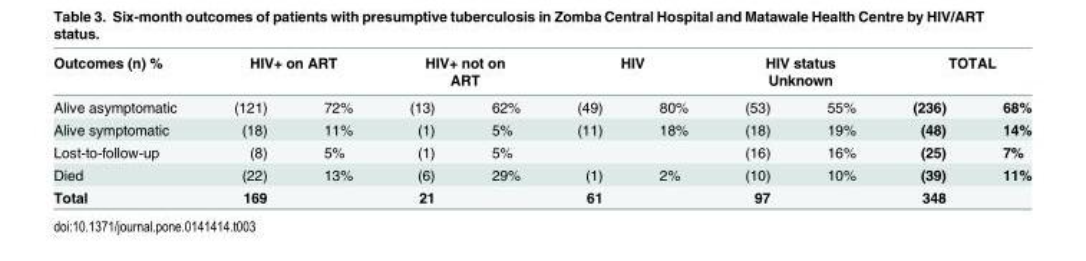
<table><thead><tr><td rowspan="2">Outcomes (n) % Alive asymptomatic</td><td colspan="2">HIV+ on ART</td><td colspan="2">HIV+ not on ART</td><td colspan="2">HIV</td><td colspan="2">HIV status Unknown</td><td colspan="2">TOTAL</td></tr><tr><td>(121)</td><td>72%</td><td>(13)</td><td>62%</td><td>(49)</td><td>80%</td><td>(53)</td><td>55%</td><td>(236)</td><td>68%</td></tr></thead><tbody><tr><td>Alive symptomatic</td><td>(18)</td><td>11%</td><td>(1)</td><td>5%</td><td>(11)</td><td>18%</td><td>(18)</td><td>19%</td><td>(48)</td><td>14%</td></tr><tr><td>Lost-to-follow-up</td><td>(8)</td><td>5%</td><td>(1)</td><td>5%</td><td></td><td></td><td>(16)</td><td>16%</td><td>(25)</td><td>7%</td></tr><tr><td>Died</td><td>(22)</td><td>13%</td><td>(6)</td><td>29%</td><td>(1)</td><td>2%</td><td>(10)</td><td>10%</td><td>(39)</td><td>11%</td></tr><tr><td>Total</td><td>169</td><td></td><td>21</td><td></td><td>61</td><td></td><td>97</td><td></td><td>348</td><td></td></tr></tbody></table>